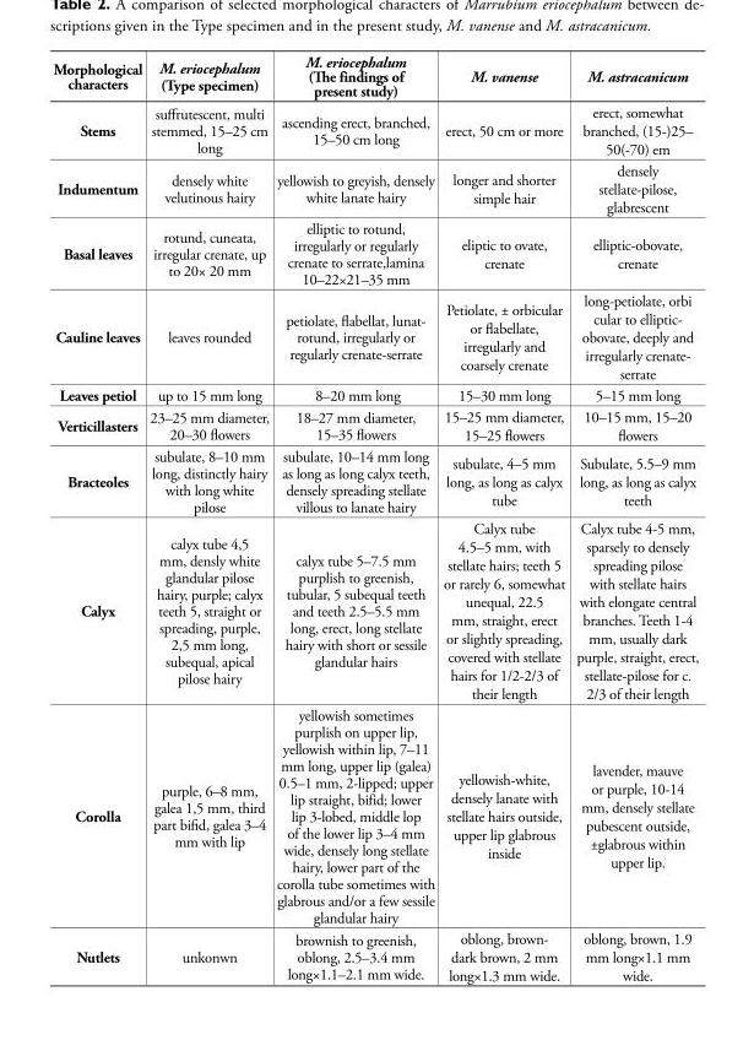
<table><thead><tr><td>Morphological characters</td><td>M. eriocephalum (Type specimen)</td><td>M. eriocephalum (Th e findings of present study)</td><td>M. vanense</td><td>M. astracanicum</td></tr></thead><tbody><tr><td>Stems</td><td>suff rutescent, multi stemmed, 15–25 cm long</td><td>ascending erect, branched, 15–50 cm long</td><td>erect, 50 cm or more</td><td>erect, somewhat branched, (15-)25– 50(-70) em</td></tr><tr><td>Indumentum</td><td>densely white velutinous hairy</td><td>yellowish to greyish, densely white lanate hairy</td><td>longer and shorter simple hair</td><td>densely stellate-pilose, glabrescent</td></tr><tr><td>Basal leaves</td><td>rotund, cuneata, irregular crenate, up to 20× 20 mm</td><td>elliptic to rotund, irregularly or regularly crenate to serrate,lamina 10–22×21–35 mm</td><td>eliptic to ovate, crenate</td><td>elliptic-obovate, crenate</td></tr><tr><td>Cauline leaves</td><td>leaves rounded</td><td>petiolate, fl abellat, lunat- rotund, irregularly or regularly crenate-serrate</td><td>Petiolate, ± orbicular or fl abellate, irregularly and coarsely crenate</td><td>long-petiolate, orbi cular to elliptic- obovate, deeply and irregularly crenate- serrate</td></tr><tr><td>Leaves petiol</td><td>up to 15 mm long</td><td>8–20 mm long</td><td>15–30 mm long</td><td>5–15 mm long</td></tr><tr><td>Verticillasters</td><td>23–25 mm diameter, 20–30 fl owers</td><td>18–27 mm diameter, 15–35 fl owers</td><td>15–25 mm diameter, 15–25 fl owers</td><td>10–15 mm, 15–20 fl owers</td></tr><tr><td>Bracteoles</td><td>subulate, 8–10 mm long, distinctly hairy with long white pilose</td><td>subulate, 10–14 mm long as long as long calyx teeth, densely spreading stellate villous to lanate hairy</td><td>subulate, 4–5 mm long, as long as calyx tube</td><td>Subulate, 5.5–9 mm long, as long as calyx teeth</td></tr><tr><td>Calyx</td><td>calyx tube 4,5 mm, densly white glandular pilose hairy, purple; calyx teeth 5, straight or spreading, purple, 2,5 mm long, subequal, apical pilose hairy</td><td>calyx tube 5–7.5 mm purplish to greenish, tubular, 5 subequal teeth and teeth 2.5–5.5 mm long, erect, long stellate hairy with short or sessile glandular hairs</td><td>Calyx tube 4.5–5 mm, with stellate hairs; teeth 5 or rarely 6, somewhat unequal, 22.5 mm, straight, erect or slightly spreading, covered with stellate hairs for 1/2-2/3 of their length</td><td>Calyx tube 4-5 mm, sparsely to densely spreading pilose with stellate hairs with elongate central branches. Teeth 1-4 mm, usually dark purple, straight, erect, stellate-pilose for c. 2/3 of their length</td></tr><tr><td>Corolla</td><td>purple, 6–8 mm, galea 1,5 mm, third part bifi d, galea 3–4 mm with lip</td><td>yellowish sometimes purplish on upper lip, yellowish within lip, 7–11 mm long, upper lip (galea) 0.5–1 mm, 2-lipped; upper lip straight, bifid; lower lip 3-lobed, middle lop of the lower lip 3–4 mm wide, densely long stellate hairy, lower part of the corolla tube sometimes with glabrous and/or a few sessile glandular hairy</td><td>yellowish-white, densely lanate with stellate hairs outside, upper lip glabrous inside</td><td>lavender, mauve or purple, 10-14 mm, densely stellate pubescent outside, ±glabrous within upper lip.</td></tr><tr><td>Nutlets</td><td>unkonwn</td><td>brownish to greenish, oblong, 2.5–3.4 mm long×1.1–2.1 mm wide.</td><td>oblong, brown- dark brown, 2 mm long×1.3 mm wide.</td><td>oblong, brown, 1.9 mm long×1.1 mm wide.</td></tr></tbody></table>